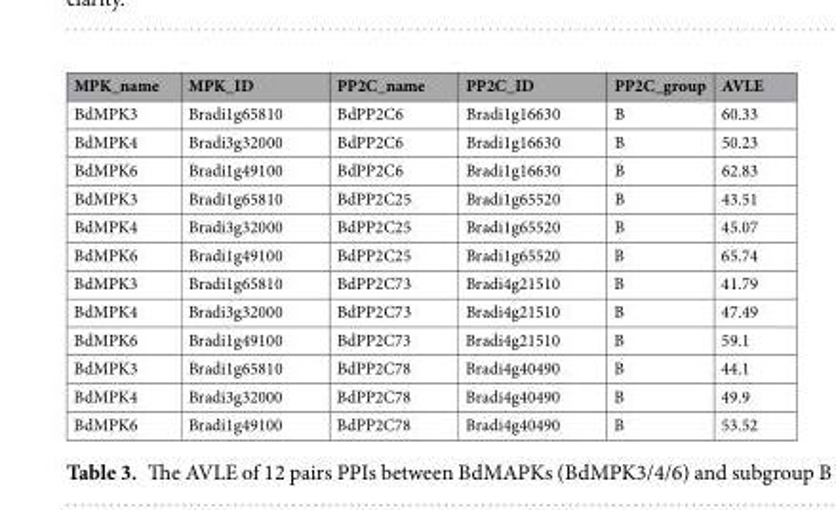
<table><thead><tr><td>MPK_name</td><td>MPK_ID</td><td>PP2C_name</td><td>PP2C_ID</td><td>PP2C_group</td><td>AVLE</td></tr></thead><tbody><tr><td>BdMPK3</td><td>Bradi1g65810</td><td>BdPP2C6</td><td>Bradi1g16630</td><td>B</td><td>60.33</td></tr><tr><td>BdMPK4</td><td>Bradi3g32000</td><td>BdPP2C6</td><td>Bradi1g16630</td><td>B</td><td>50.23</td></tr><tr><td>BdMPK6</td><td>Bradi1g49100</td><td>BdPP2C6</td><td>Bradi1g16630</td><td>B</td><td>62.83</td></tr><tr><td>BdMPK3</td><td>Bradi1g65810</td><td>BdPP2C25</td><td>Bradi1g65520</td><td>B</td><td>43.51</td></tr><tr><td>BdMPK4</td><td>Bradi3g32000</td><td>BdPP2C25</td><td>Bradi1g65520</td><td>B</td><td>45.07</td></tr><tr><td>BdMPK6</td><td>Bradi1g49100</td><td>BdPP2C25</td><td>Bradi1g65520</td><td>B</td><td>65.74</td></tr><tr><td>BdMPK3</td><td>Bradi1g65810</td><td>BdPP2C73</td><td>Bradi4g21510</td><td>B</td><td>41.79</td></tr><tr><td>BdMPK4</td><td>Bradi3g32000</td><td>BdPP2C73</td><td>Bradi4g21510</td><td>B</td><td>47.49</td></tr><tr><td>BdMPK6</td><td>Bradi1g49100</td><td>BdPP2C73</td><td>Bradi4g21510</td><td>B</td><td>59.1</td></tr><tr><td>BdMPK3</td><td>Bradi1g65810</td><td>BdPP2C78</td><td>Bradi4g40490</td><td>B</td><td>44.1</td></tr><tr><td>BdMPK4</td><td>Bradi3g32000</td><td>BdPP2C78</td><td>Bradi4g40490</td><td>B</td><td>49.9</td></tr><tr><td>BdMPK6</td><td>Bradi1g49100</td><td>BdPP2C78</td><td>Bradi4g40490</td><td>B</td><td>53.52</td></tr></tbody></table>